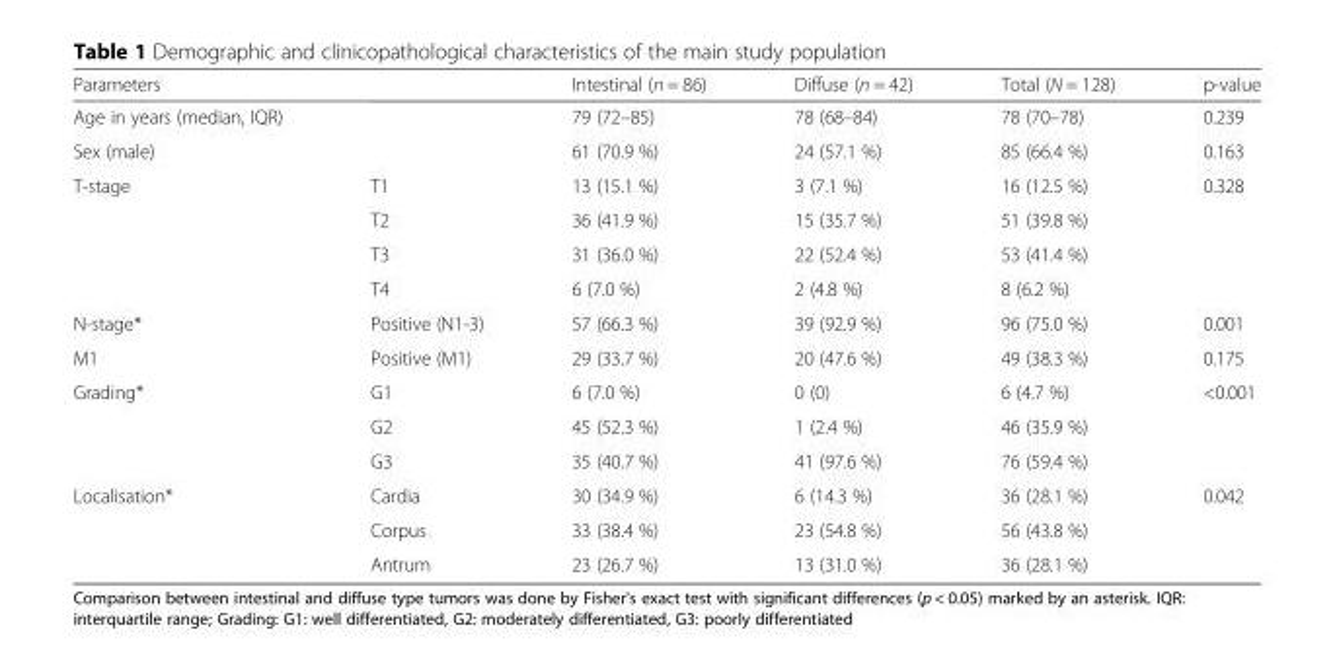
<table><thead><tr><td>Parameters</td><td></td><td>Intestinal (n = 86)</td><td>Diffuse (n = 42)</td><td>Total (N = 128)</td><td>p-value</td></tr></thead><tbody><tr><td>Age in years (median, IQR)</td><td></td><td>79 (72–85)</td><td>78 (68–84)</td><td>78 (70–78)</td><td>0.239</td></tr><tr><td>Sex (male)</td><td></td><td>61 (70.9 %)</td><td>24 (57.1 %)</td><td>85 (66.4 %)</td><td>0.163</td></tr><tr><td rowspan="4">T-stage</td><td>T1</td><td>13 (15.1 %)</td><td>3 (7.1 %)</td><td>16 (12.5 %)</td><td rowspan="4">0.328</td></tr><tr><td>T2</td><td>36 (41.9 %)</td><td>15 (35.7 %)</td><td>51 (39.8 %)</td></tr><tr><td>T3</td><td>31 (36.0 %)</td><td>22 (52.4 %)</td><td>53 (41.4 %)</td></tr><tr><td>T4</td><td>6 (7.0 %)</td><td>2 (4.8 %)</td><td>8 (6.2 %)</td></tr><tr><td>N-stage*</td><td>Positive (N1-3)</td><td>57 (66.3 %)</td><td>39 (92.9 %)</td><td>96 (75.0 %)</td><td>0.001</td></tr><tr><td>M1</td><td>Positive (M1)</td><td>29 (33.7 %)</td><td>20 (47.6 %)</td><td>49 (38.3 %)</td><td>0.175</td></tr><tr><td rowspan="3">Grading*</td><td>G1</td><td>6 (7.0 %)</td><td>0 (0)</td><td>6 (4.7 %)</td><td rowspan="3">&lt;0.001</td></tr><tr><td>G2</td><td>45 (52.3 %)</td><td>1 (2.4 %)</td><td>46 (35.9 %)</td></tr><tr><td>G3</td><td>35 (40.7 %)</td><td>41 (97.6 %)</td><td>76 (59.4 %)</td></tr><tr><td rowspan="3">Localisation*</td><td>Cardia</td><td>30 (34.9 %)</td><td>6 (14.3 %)</td><td>36 (28.1 %)</td><td rowspan="3">0.042</td></tr><tr><td>Corpus</td><td>33 (38.4 %)</td><td>23 (54.8 %)</td><td>56 (43.8 %)</td></tr><tr><td>Antrum</td><td>23 (26.7 %)</td><td>13 (31.0 %)</td><td>36 (28.1 %)</td></tr></tbody></table>